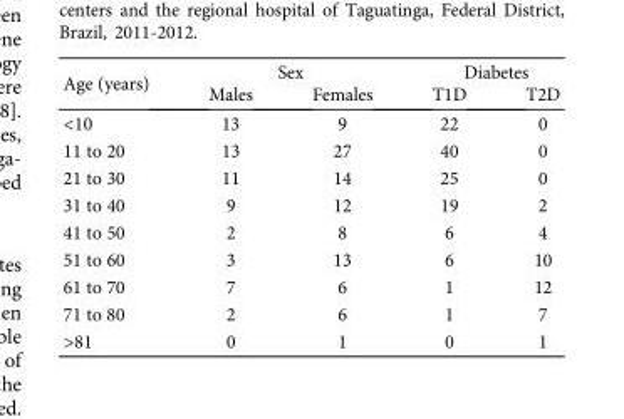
<table><thead><tr><td rowspan="2">Age (years)</td><td colspan="2">Sex</td><td colspan="2">Diabetes</td></tr><tr><td>Males</td><td>Females</td><td>T1D</td><td>T2D</td></tr></thead><tbody><tr><td>&lt;10</td><td>13</td><td>9</td><td>22</td><td>0</td></tr><tr><td>11 to 20</td><td>13</td><td>27</td><td>40</td><td>0</td></tr><tr><td>21 to 30</td><td>11</td><td>14</td><td>25</td><td>0</td></tr><tr><td>31 to 40</td><td>9</td><td>12</td><td>19</td><td>2</td></tr><tr><td>41 to 50</td><td>2</td><td>8</td><td>6</td><td>4</td></tr><tr><td>51 to 60</td><td>3</td><td>13</td><td>6</td><td>10</td></tr><tr><td>61 to 70</td><td>7</td><td>6</td><td>1</td><td>12</td></tr><tr><td>71 to 80</td><td>2</td><td>6</td><td>1</td><td>7</td></tr><tr><td>&gt;81</td><td>0</td><td>1</td><td>0</td><td>1</td></tr></tbody></table>